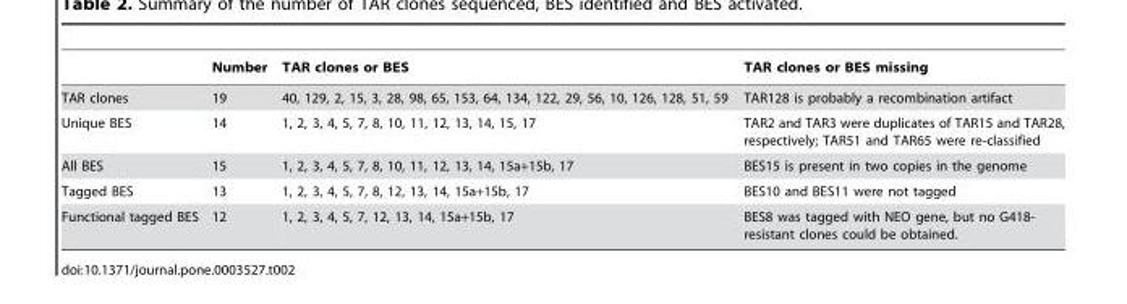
<table><thead><tr><td></td><td>Number</td><td>TAR clones or BES</td><td>TAR clones or BES missing</td></tr></thead><tbody><tr><td>TAR clones</td><td>19</td><td>40, 129, 2, 15, 3, 28, 98, 65, 153, 64, 134, 122, 29, 56, 10, 126, 128, 51, 59</td><td>TAR128 is probably a recombination artifact</td></tr><tr><td>Unique BES</td><td>14</td><td>1, 2, 3, 4, 5, 7, 8, 10, 11, 12, 13, 14, 15, 17</td><td>TAR2 and TAR3 were duplicates of TAR15 and TAR28, respectively; TAR51 and TAR65 were re-classified</td></tr><tr><td>All BES</td><td>15</td><td>1, 2, 3, 4, 5, 7, 8, 10, 11, 12, 13, 14, 15a+15b, 17</td><td>BES15 is present in two copies in the genome</td></tr><tr><td>Tagged BES</td><td>13</td><td>1, 2, 3, 4, 5, 7, 8, 12, 13, 14, 15a+15b, 17</td><td>BES10 and BES11 were not tagged</td></tr><tr><td>Functional tagged BES</td><td>12</td><td>1, 2, 3, 4, 5, 7, 12, 13, 14, 15a+15b, 17</td><td>BES8 was tagged with NEO gene, but no G418- resistant clones could be obtained.</td></tr></tbody></table>